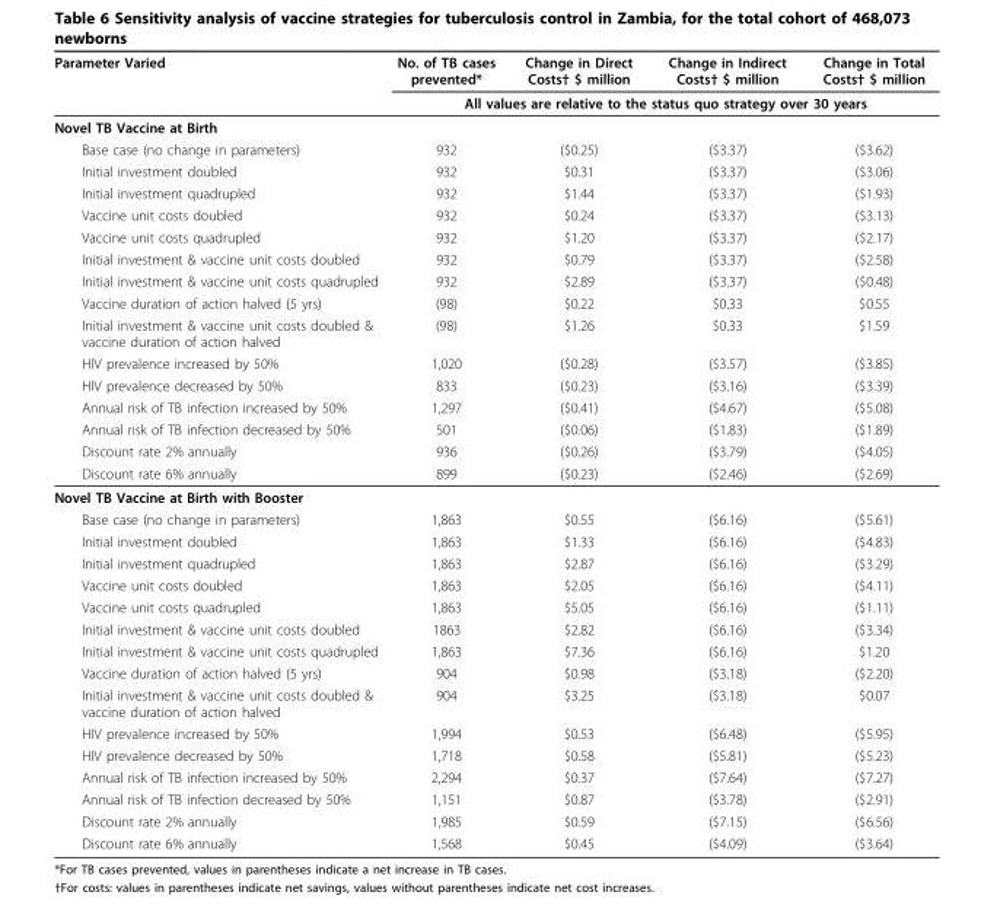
<table><thead><tr><td rowspan="2">Parameter Varied</td><td>No. of TB cases prevented*</td><td>Change in Direct Costs† $ million</td><td>Change in Indirect Costs† $ million</td><td>Change in Total Costs† $ million</td></tr><tr><td colspan="4">All values are relative to the status quo strategy over 30 years</td></tr></thead><tbody><tr><td colspan="5">Novel TB Vaccine at Birth</td></tr><tr><td>Base case (no change in parameters)</td><td>932</td><td>($0.25)</td><td>($3.37)</td><td>($3.62)</td></tr><tr><td>Initial investment doubled</td><td>932</td><td>$0.31</td><td>($3.37)</td><td>($3.06)</td></tr><tr><td>Initial investment quadrupled</td><td>932</td><td>$1.44</td><td>($3.37)</td><td>($1.93)</td></tr><tr><td>Vaccine unit costs doubled</td><td>932</td><td>$0.24</td><td>($3.37)</td><td>($3.13)</td></tr><tr><td>Vaccine unit costs quadrupled</td><td>932</td><td>$1.20</td><td>($3.37)</td><td>($2.17)</td></tr><tr><td>Initial investment &amp; vaccine unit costs doubled</td><td>932</td><td>$0.79</td><td>($3.37)</td><td>($2.58)</td></tr><tr><td>Initial investment &amp; vaccine unit costs quadrupled</td><td>932</td><td>$2.89</td><td>($3.37)</td><td>($0.48)</td></tr><tr><td>Vaccine duration of action halved (5 yrs)</td><td>(98)</td><td>$0.22</td><td>$0.33</td><td>$0.55</td></tr><tr><td>Initial investment &amp; vaccine unit costs doubled &amp; vaccine duration of action halved</td><td>(98)</td><td>$1.26</td><td>$0.33</td><td>$1.59</td></tr><tr><td>HIV prevalence increased by 50%</td><td>1,020</td><td>($0.28)</td><td>($3.57)</td><td>($3.85)</td></tr><tr><td>HIV prevalence decreased by 50%</td><td>833</td><td>($0.23)</td><td>($3.16)</td><td>($3.39)</td></tr><tr><td>Annual risk of TB infection increased by 50%</td><td>1,297</td><td>($0.41)</td><td>($4.67)</td><td>($5.08)</td></tr><tr><td>Annual risk of TB infection decreased by 50%</td><td>501</td><td>($0.06)</td><td>($1.83)</td><td>($1.89)</td></tr><tr><td>Discount rate 2% annually</td><td>936</td><td>($0.26)</td><td>($3.79)</td><td>($4.05)</td></tr><tr><td>Discount rate 6% annually</td><td>899</td><td>($0.23)</td><td>($2.46)</td><td>($2.69)</td></tr><tr><td colspan="5">Novel TB Vaccine at Birth with Booster</td></tr><tr><td>Base case (no change in parameters)</td><td>1,863</td><td>$0.55</td><td>($6.16)</td><td>($5.61)</td></tr><tr><td>Initial investment doubled</td><td>1,863</td><td>$1.33</td><td>($6.16)</td><td>($4.83)</td></tr><tr><td>Initial investment quadrupled</td><td>1,863</td><td>$2.87</td><td>($6.16)</td><td>($3.29)</td></tr><tr><td>Vaccine unit costs doubled</td><td>1,863</td><td>$2.05</td><td>($6.16)</td><td>($4.11)</td></tr><tr><td>Vaccine unit costs quadrupled</td><td>1,863</td><td>$5.05</td><td>($6.16)</td><td>($1.11)</td></tr><tr><td>Initial investment &amp; vaccine unit costs doubled</td><td>1863</td><td>$2.82</td><td>($6.16)</td><td>($3.34)</td></tr><tr><td>Initial investment &amp; vaccine unit costs quadrupled</td><td>1,863</td><td>$7.36</td><td>($6.16)</td><td>$1.20</td></tr><tr><td>Vaccine duration of action halved (5 yrs)</td><td>904</td><td>$0.98</td><td>($3.18)</td><td>($2.20)</td></tr><tr><td>Initial investment &amp; vaccine unit costs doubled &amp; vaccine duration of action halved</td><td>904</td><td>$3.25</td><td>($3.18)</td><td>$0.07</td></tr><tr><td>HIV prevalence increased by 50%</td><td>1,994</td><td>$0.53</td><td>($6.48)</td><td>($5.95)</td></tr><tr><td>HIV prevalence decreased by 50%</td><td>1,718</td><td>$0.58</td><td>($5.81)</td><td>($5.23)</td></tr><tr><td>Annual risk of TB infection increased by 50%</td><td>2,294</td><td>$0.37</td><td>($7.64)</td><td>($7.27)</td></tr><tr><td>Annual risk of TB infection decreased by 50%</td><td>1,151</td><td>$0.87</td><td>($3.78)</td><td>($2.91)</td></tr><tr><td>Discount rate 2% annually</td><td>1,985</td><td>$0.59</td><td>($7.15)</td><td>($6.56)</td></tr><tr><td>Discount rate 6% annually</td><td>1,568</td><td>$0.45</td><td>($4.09)</td><td>($3.64)</td></tr></tbody></table>